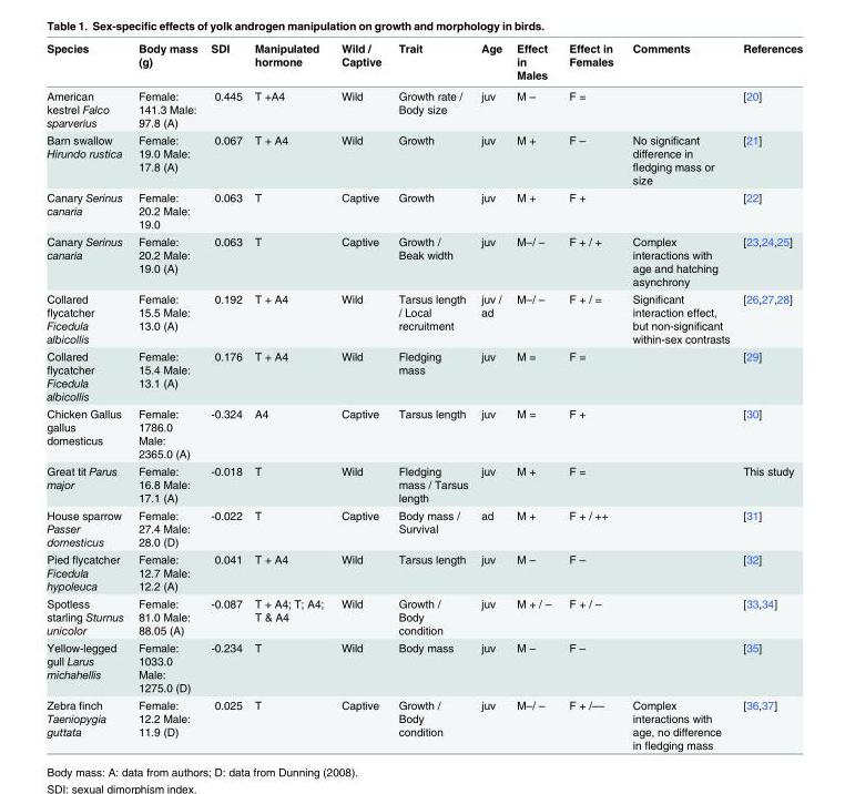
<table><thead><tr><td>Species</td><td>Body mass (g)</td><td>SDI</td><td>Manipulated hormone</td><td>Wild / Captive</td><td>Trait</td><td>Age</td><td>Effect in Males</td><td>Effect in Females</td><td>Comments</td><td>References</td></tr></thead><tbody><tr><td>American kestrel Falco sparverius</td><td>Female: 141.3 Male: 97.8 (A)</td><td>0.445</td><td>T +A4</td><td>Wild</td><td>Growth rate / Body size</td><td>juv</td><td>M –</td><td>F =</td><td></td><td>[20]</td></tr><tr><td>Barn swallow Hirundo rustica</td><td>Female: 19.0 Male: 17.8 (A)</td><td>0.067</td><td>T + A4</td><td>Wild</td><td>Growth</td><td>juv</td><td>M +</td><td>F –</td><td>No significant difference in fledging mass or size</td><td>[21]</td></tr><tr><td>Canary Serinus canaria</td><td>Female: 20.2 Male: 19.0</td><td>0.063</td><td>T</td><td>Captive</td><td>Growth</td><td>juv</td><td>M +</td><td>F +</td><td></td><td>[22]</td></tr><tr><td>Canary Serinus canaria</td><td>Female: 20.2 Male: 19.0 (A)</td><td>0.063</td><td>T</td><td>Captive</td><td>Growth / Beak width</td><td>juv</td><td>M–/ –</td><td>F + / +</td><td>Complex interactions with age and hatching asynchrony</td><td>[23,24,25]</td></tr><tr><td>Collared flycatcher Ficedula albicollis</td><td>Female: 15.5 Male: 13.0 (A)</td><td>0.192</td><td>T + A4</td><td>Wild</td><td>Tarsus length / Local recruitment</td><td>juv / ad</td><td>M–/ –</td><td>F + / =</td><td>Significant interaction effect, but non-significant within-sex contrasts</td><td>[26,27,28]</td></tr><tr><td>Collared flycatcher Ficedula albicollis</td><td>Female: 15.4 Male: 13.1 (A)</td><td>0.176</td><td>T + A4</td><td>Wild</td><td>Fledging mass</td><td>juv</td><td>M =</td><td>F =</td><td></td><td>[29]</td></tr><tr><td>Chicken Gallus gallus domesticus</td><td>Female: 1786.0 Male: 2365.0 (A)</td><td>-0.324</td><td>A4</td><td>Captive</td><td>Tarsus length</td><td>juv</td><td>M =</td><td>F +</td><td></td><td>[30]</td></tr><tr><td>Great tit Parus major</td><td>Female: 16.8 Male: 17.1 (A)</td><td>-0.018</td><td>T</td><td>Wild</td><td>Fledging mass / Tarsus length</td><td>juv</td><td>M +</td><td>F =</td><td></td><td>This study</td></tr><tr><td>House sparrow Passer domesticus</td><td>Female: 27.4 Male: 28.0 (D)</td><td>-0.022</td><td>T</td><td>Captive</td><td>Body mass / Survival</td><td>ad</td><td>M +</td><td>F + / ++</td><td></td><td>[31]</td></tr><tr><td>Pied flycatcher Ficedula hypoleuca</td><td>Female: 12.7 Male: 12.2 (A)</td><td>0.041</td><td>T + A4</td><td>Wild</td><td>Tarsus length</td><td>juv</td><td>M –</td><td>F –</td><td></td><td>[32]</td></tr><tr><td>Spotless starling Sturnus unicolor</td><td>Female: 81.0 Male: 88.05 (A)</td><td>-0.087</td><td>T + A4; T; A4; T &amp; A4</td><td>Wild</td><td>Growth / Body condition</td><td>juv</td><td>M + / –</td><td>F + / –</td><td></td><td>[33,34]</td></tr><tr><td>Yellow-legged gull Larus michahellis</td><td>Female: 1033.0 Male: 1275.0 (D)</td><td>-0.234</td><td>T</td><td>Wild</td><td>Body mass</td><td>juv</td><td>M –</td><td>F –</td><td></td><td>[35]</td></tr><tr><td>Zebra finch Taeniopygia guttata</td><td>Female: 12.2 Male: 11.9 (D)</td><td>0.025</td><td>T</td><td>Captive</td><td>Growth / Body condition</td><td>juv</td><td>M–/ –</td><td>F + /––</td><td>Complex interactions with age, no difference in fledging mass</td><td>[36,37]</td></tr></tbody></table>